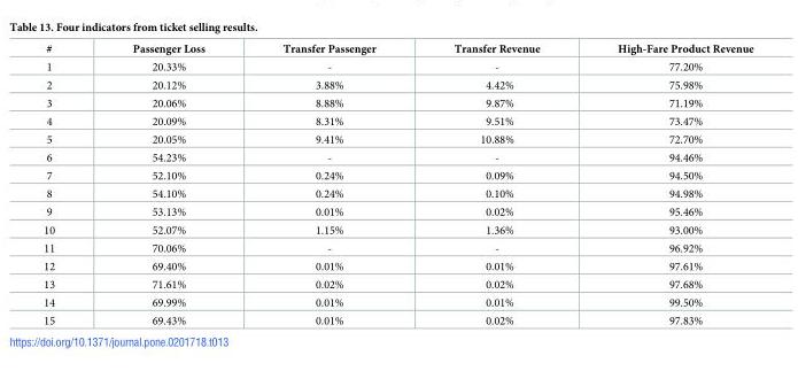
<table><thead><tr><td>#</td><td>Passenger Loss</td><td>Transfer Passenger</td><td>Transfer Revenue</td><td>High-Fare Product Revenue</td></tr></thead><tbody><tr><td>1</td><td>20.33%</td><td>-</td><td>-</td><td>77.20%</td></tr><tr><td>2</td><td>20.12%</td><td>3.88%</td><td>4.42%</td><td>75.98%</td></tr><tr><td>3</td><td>20.06%</td><td>8.88%</td><td>9.87%</td><td>71.19%</td></tr><tr><td>4</td><td>20.09%</td><td>8.31%</td><td>9.51%</td><td>73.47%</td></tr><tr><td>5</td><td>20.05%</td><td>9.41%</td><td>10.88%</td><td>72.70%</td></tr><tr><td>6</td><td>54.23%</td><td>-</td><td>-</td><td>94.46%</td></tr><tr><td>7</td><td>52.10%</td><td>0.24%</td><td>0.09%</td><td>94.50%</td></tr><tr><td>8</td><td>54.10%</td><td>0.24%</td><td>0.10%</td><td>94.98%</td></tr><tr><td>9</td><td>53.13%</td><td>0.01%</td><td>0.02%</td><td>95.46%</td></tr><tr><td>10</td><td>52.07%</td><td>1.15%</td><td>1.36%</td><td>93.00%</td></tr><tr><td>11</td><td>70.06%</td><td>-</td><td>-</td><td>96.92%</td></tr><tr><td>12</td><td>69.40%</td><td>0.01%</td><td>0.01%</td><td>97.61%</td></tr><tr><td>13</td><td>71.61%</td><td>0.02%</td><td>0.02%</td><td>97.68%</td></tr><tr><td>14</td><td>69.99%</td><td>0.01%</td><td>0.01%</td><td>99.50%</td></tr><tr><td>15</td><td>69.43%</td><td>0.01%</td><td>0.02%</td><td>97.83%</td></tr></tbody></table>